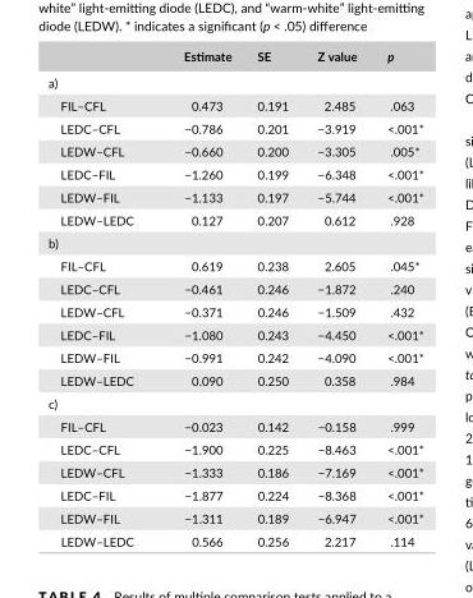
<table><thead><tr><td></td><td>Estimate</td><td>SE</td><td>Z value</td><td>p</td></tr></thead><tbody><tr><td colspan="5">a)</td></tr><tr><td>FIL–CFL</td><td>0.473</td><td>0.191</td><td>2.485</td><td>.063</td></tr><tr><td>LEDC–CFL</td><td>−0.786</td><td>0.201</td><td>−3.919</td><td>&lt;.001*</td></tr><tr><td>LEDW–CFL</td><td>−0.660</td><td>0.200</td><td>−3.305</td><td>.005*</td></tr><tr><td>LEDC–FIL</td><td>−1.260</td><td>0.199</td><td>−6.348</td><td>&lt;.001*</td></tr><tr><td>LEDW–FIL</td><td>−1.133</td><td>0.197</td><td>−5.744</td><td>&lt;.001*</td></tr><tr><td>LEDW–LEDC</td><td>0.127</td><td>0.207</td><td>0.612</td><td>.928</td></tr><tr><td colspan="5">b)</td></tr><tr><td>FIL–CFL</td><td>0.619</td><td>0.238</td><td>2.605</td><td>.045*</td></tr><tr><td>LEDC–CFL</td><td>−0.461</td><td>0.246</td><td>−1.872</td><td>.240</td></tr><tr><td>LEDW–CFL</td><td>−0.371</td><td>0.246</td><td>−1.509</td><td>.432</td></tr><tr><td>LEDC–FIL</td><td>−1.080</td><td>0.243</td><td>−4.450</td><td>&lt;.001*</td></tr><tr><td>LEDW–FIL</td><td>−0.991</td><td>0.242</td><td>−4.090</td><td>&lt;.001*</td></tr><tr><td>LEDW–LEDC</td><td>0.090</td><td>0.250</td><td>0.358</td><td>.984</td></tr><tr><td colspan="5">c)</td></tr><tr><td>FIL–CFL</td><td>−0.023</td><td>0.142</td><td>−0.158</td><td>.999</td></tr><tr><td>LEDC–CFL</td><td>−1.900</td><td>0.225</td><td>−8.463</td><td>&lt;.001*</td></tr><tr><td>LEDW–CFL</td><td>−1.333</td><td>0.186</td><td>−7.169</td><td>&lt;.001*</td></tr><tr><td>LEDC–FIL</td><td>−1.877</td><td>0.224</td><td>−8.368</td><td>&lt;.001*</td></tr><tr><td>LEDW–FIL</td><td>−1.311</td><td>0.189</td><td>−6.947</td><td>&lt;.001*</td></tr><tr><td>LEDW–LEDC</td><td>0.566</td><td>0.256</td><td>2.217</td><td>.114</td></tr></tbody></table>